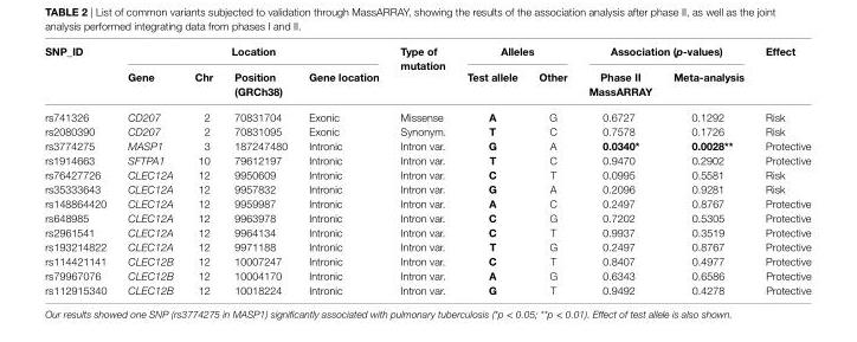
<table><thead><tr><td rowspan="2">snP_iD</td><td colspan="4">location</td><td rowspan="2">Type of mutation</td><td colspan="2">alleles</td><td colspan="2">association (p-values)</td><td rowspan="2">effect</td></tr><tr><td>gene</td><td>chr</td><td>Position (grch38)</td><td>gene location</td><td>Test allele</td><td>Other</td><td>Phase ii MassarraY</td><td>Meta-analysis</td></tr></thead><tbody><tr><td>rs741326</td><td>CD207</td><td>2</td><td>70831704</td><td>Exonic</td><td>Missense</td><td>a</td><td>G</td><td>0.6727</td><td>0.1292</td><td>Risk</td></tr><tr><td>rs2080390</td><td>CD207</td><td>2</td><td>70831095</td><td>Exonic</td><td>Synonym.</td><td>T</td><td>C</td><td>0.7578</td><td>0.1726</td><td>Risk</td></tr><tr><td>rs3774275</td><td>MASP1</td><td>3</td><td>187247480</td><td>Intronic</td><td>Intron var.</td><td>g</td><td>A</td><td>0.0340*</td><td>0.0028**</td><td>Protective</td></tr><tr><td>rs1914663</td><td>SFTPA1</td><td>10</td><td>79612197</td><td>Intronic</td><td>Intron var.</td><td>T</td><td>C</td><td>0.9470</td><td>0.2902</td><td>Protective</td></tr><tr><td>rs76427726</td><td>CLEC12A</td><td>12</td><td>9950609</td><td>Intronic</td><td>Intron var.</td><td>c</td><td>T</td><td>0.0995</td><td>0.5581</td><td>Risk</td></tr><tr><td>rs35333643</td><td>CLEC12A</td><td>12</td><td>9957832</td><td>Intronic</td><td>Intron var.</td><td>g</td><td>A</td><td>0.2096</td><td>0.9281</td><td>Risk</td></tr><tr><td>rs148864420</td><td>CLEC12A</td><td>12</td><td>9959987</td><td>Intronic</td><td>Intron var.</td><td>a</td><td>C</td><td>0.2497</td><td>0.8767</td><td>Protective</td></tr><tr><td>rs648985</td><td>CLEC12A</td><td>12</td><td>9963978</td><td>Intronic</td><td>Intron var.</td><td>c</td><td>G</td><td>0.7202</td><td>0.5305</td><td>Protective</td></tr><tr><td>rs2961541</td><td>CLEC12A</td><td>12</td><td>9964134</td><td>Intronic</td><td>Intron var.</td><td>c</td><td>T</td><td>0.9937</td><td>0.3519</td><td>Protective</td></tr><tr><td>rs193214822</td><td>CLEC12A</td><td>12</td><td>9971188</td><td>Intronic</td><td>Intron var.</td><td>T</td><td>G</td><td>0.2497</td><td>0.8767</td><td>Protective</td></tr><tr><td>rs114421141</td><td>CLEC12B</td><td>12</td><td>10007247</td><td>Intronic</td><td>Intron var.</td><td>c</td><td>T</td><td>0.8407</td><td>0.4977</td><td>Protective</td></tr><tr><td>rs79967076</td><td>CLEC12B</td><td>12</td><td>10004170</td><td>Intronic</td><td>Intron var.</td><td>a</td><td>G</td><td>0.6343</td><td>0.6586</td><td>Protective</td></tr><tr><td>rs112915340</td><td>CLEC12B</td><td>12</td><td>10018224</td><td>Intronic</td><td>Intron var.</td><td>g</td><td>T</td><td>0.9492</td><td>0.4278</td><td>Protective</td></tr></tbody></table>